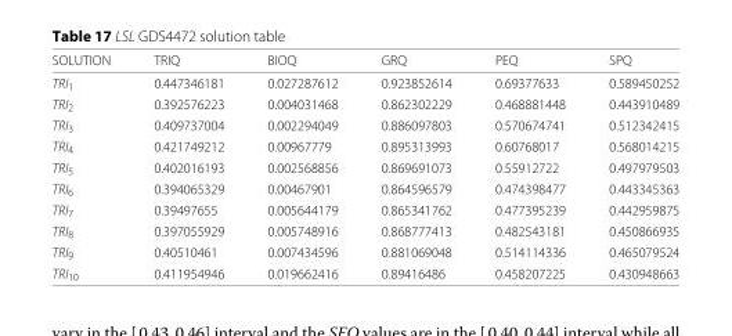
<table><thead><tr><td>SOLUTION</td><td>TRIQ</td><td>BIOQ</td><td>GRQ</td><td>PEQ</td><td>SPQ</td></tr></thead><tbody><tr><td>TRI<sub>1</sub></td><td>0.447346181</td><td>0.027287612</td><td>0.923852614</td><td>0.69377633</td><td>0.589450252</td></tr><tr><td>TRI<sub>2</sub></td><td>0.392576223</td><td>0.004031468</td><td>0.862302229</td><td>0.468881448</td><td>0.443910489</td></tr><tr><td>TRI<sub>3</sub></td><td>0.409737004</td><td>0.002294049</td><td>0.886097803</td><td>0.570674741</td><td>0.512342415</td></tr><tr><td>TRI<sub>4</sub></td><td>0.421749212</td><td>0.00967779</td><td>0.895313993</td><td>0.60768017</td><td>0.568014215</td></tr><tr><td>TRI<sub>5</sub></td><td>0.402016193</td><td>0.002568856</td><td>0.869691073</td><td>0.55912722</td><td>0.497979503</td></tr><tr><td>TRI<sub>6</sub></td><td>0.394065329</td><td>0.00467901</td><td>0.864596579</td><td>0.474398477</td><td>0.443345363</td></tr><tr><td>TRI<sub>7</sub></td><td>0.39497655</td><td>0.005644179</td><td>0.865341762</td><td>0.477395239</td><td>0.442959875</td></tr><tr><td>TRI<sub>8</sub></td><td>0.397055929</td><td>0.005748916</td><td>0.868777413</td><td>0.482543181</td><td>0.450866935</td></tr><tr><td>TRI<sub>9</sub></td><td>0.40510461</td><td>0.007434596</td><td>0.881069048</td><td>0.514114336</td><td>0.465079524</td></tr><tr><td>TRI<sub>10</sub></td><td>0.411954946</td><td>0.019662416</td><td>0.89416486</td><td>0.458207225</td><td>0.430948663</td></tr></tbody></table>